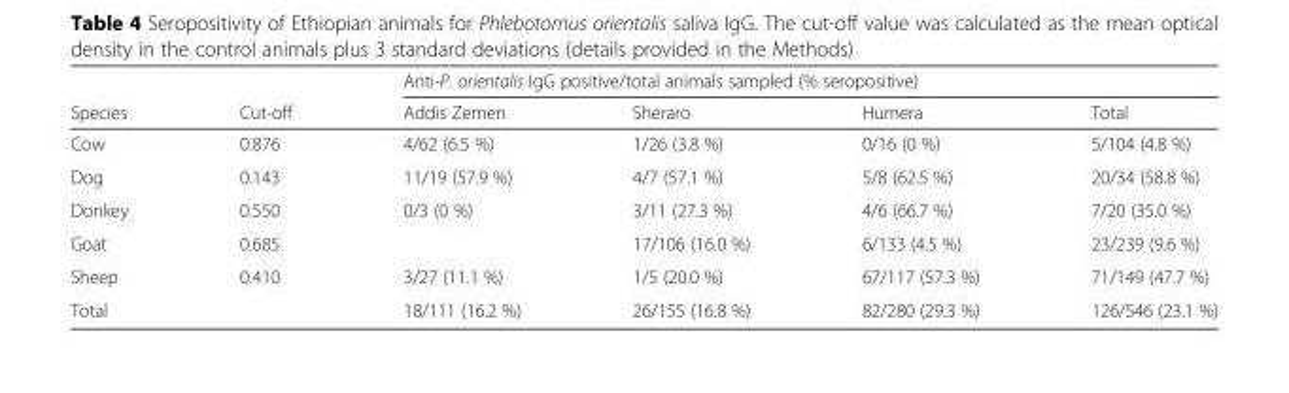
<table><thead><tr><td rowspan="2">Species</td><td rowspan="2">Cut-off</td><td colspan="4">Anti-P. orientalis IgG positive/total animals sampled (% seropositive)</td></tr><tr><td>Addis Zemen</td><td>Sheraro</td><td>Humera</td><td>Total</td></tr></thead><tbody><tr><td>Cow</td><td>0.876</td><td>4/62 (6.5 %)</td><td>1/26 (3.8 %)</td><td>0/16 (0 %)</td><td>5/104 (4.8 %)</td></tr><tr><td>Dog</td><td>0.143</td><td>11/19 (57.9 %)</td><td>4/7 (57.1 %)</td><td>5/8 (62.5 %)</td><td>20/34 (58.8 %)</td></tr><tr><td>Donkey</td><td>0.550</td><td>0/3 (0 %)</td><td>3/11 (27.3 %)</td><td>4/6 (66.7 %)</td><td>7/20 (35.0 %)</td></tr><tr><td>Goat</td><td>0.685</td><td></td><td>17/106 (16.0 %)</td><td>6/133 (4.5 %)</td><td>23/239 (9.6 %)</td></tr><tr><td>Sheep</td><td>0.410</td><td>3/27 (11.1 %)</td><td>1/5 (20.0 %)</td><td>67/117 (57.3 %)</td><td>71/149 (47.7 %)</td></tr><tr><td>Total</td><td></td><td>18/111 (16.2 %)</td><td>26/155 (16.8 %)</td><td>82/280 (29.3 %)</td><td>126/546 (23.1 %)</td></tr></tbody></table>